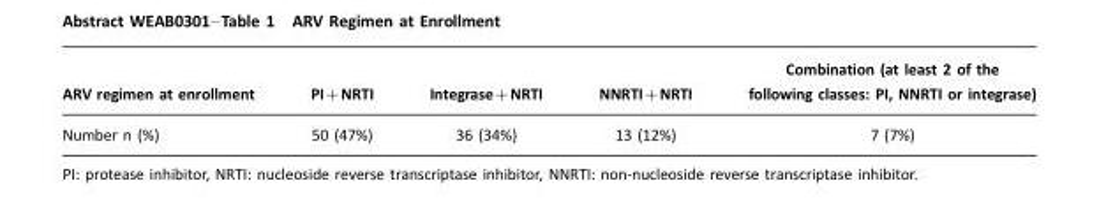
<table><thead><tr><td>ARV regimen at enrollment</td><td>PI+NRTI</td><td>Integrase+NRTI</td><td>NNRTI+NRTI</td><td>Combination (at least 2 of the following classes: PI, NNRTI or integrase)</td></tr></thead><tbody><tr><td>Number n (%)</td><td>50 (47%)</td><td>36 (34%)</td><td>13 (12%)</td><td>7 (7%)</td></tr></tbody></table>